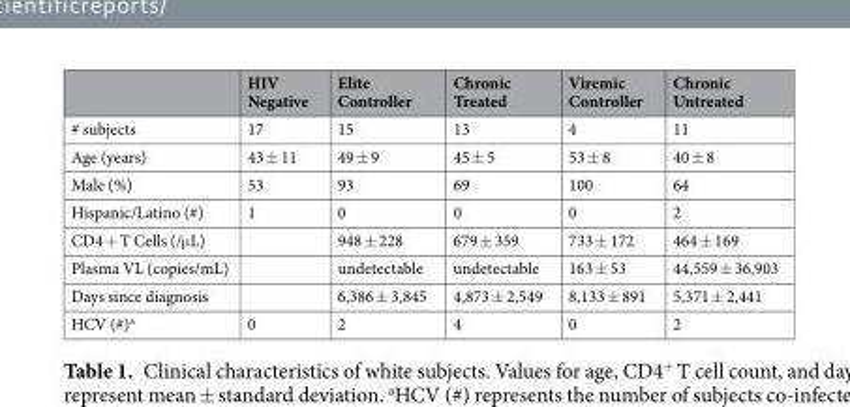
<table><thead><tr><td></td><td>HIV Negative</td><td>Elite Controller</td><td>Chronic Treated</td><td>Viremic Controller</td><td>Chronic Untreated</td></tr></thead><tbody><tr><td># subjects</td><td>17</td><td>15</td><td>13</td><td>4</td><td>11</td></tr><tr><td>Age (years)</td><td>43 ± 11</td><td>49 ± 9</td><td>45 ± 5</td><td>53 ± 8</td><td>40 ± 8</td></tr><tr><td>Male (%)</td><td>53</td><td>93</td><td>69</td><td>100</td><td>64</td></tr><tr><td>Hispanic/Latino (#)</td><td>1</td><td>0</td><td>0</td><td>0</td><td>2</td></tr><tr><td>CD4 + T Cells (/μL)</td><td></td><td>948 ± 228</td><td>679 ± 359</td><td>733 ± 172</td><td>464 ± 169</td></tr><tr><td>Plasma VL (copies/mL)</td><td></td><td>undetectable</td><td>undetectable</td><td>163 ± 53</td><td>44,559 ± 36,903</td></tr><tr><td>Days since diagnosis</td><td></td><td>6,386 ± 3,845</td><td>4,873 ± 2,549</td><td>8,133 ± 891</td><td>5,371 ± 2,441</td></tr><tr><td>HCV (#)<sup>a</sup></td><td>0</td><td>2</td><td>4</td><td>0</td><td>2</td></tr></tbody></table>